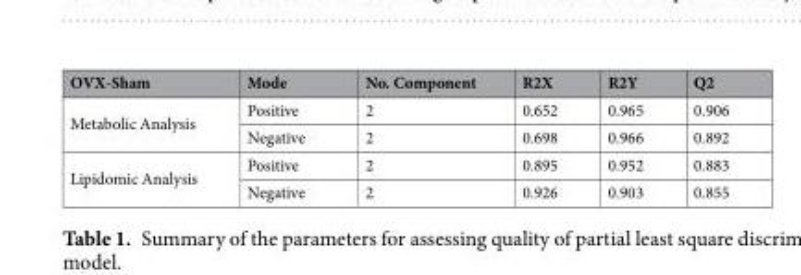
<table><thead><tr><td>OVX-Sham</td><td>Mode</td><td>No. Component</td><td>R2X</td><td>R2Y</td><td>Q2</td></tr></thead><tbody><tr><td rowspan="2">Metabolic Analysis</td><td>Positive</td><td>2</td><td>0.652</td><td>0.965</td><td>0.906</td></tr><tr><td>Negative</td><td>2</td><td>0.698</td><td>0.966</td><td>0.892</td></tr><tr><td rowspan="2">Lipidomic Analysis</td><td>Positive</td><td>2</td><td>0.895</td><td>0.952</td><td>0.883</td></tr><tr><td>Negative</td><td>2</td><td>0.926</td><td>0.903</td><td>0.855</td></tr></tbody></table>